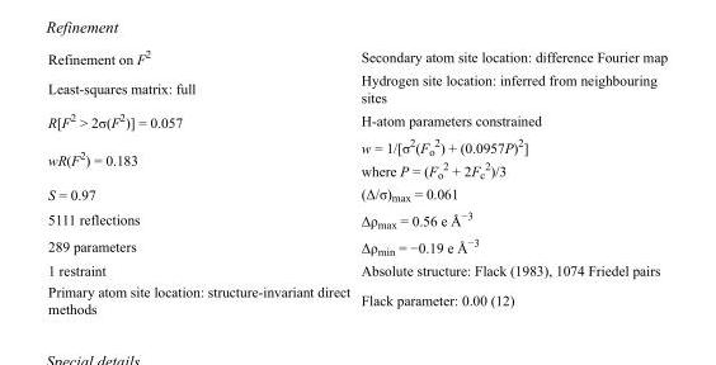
<table><tbody><tr><td>Refinement on F<sup>2</sup></td><td>Secondary atom site location: difference Fourier map</td></tr><tr><td>Least-squares matrix: full</td><td>Hydrogen site location: inferred from neighbouring sites</td></tr><tr><td>R[F<sup>2</sup> &gt; 2σ(F<sup>2</sup>)] = 0.057</td><td>H-atom parameters constrained</td></tr><tr><td>wR(F<sup>2</sup>) = 0.183</td><td>w = 1/[σ<sup>2</sup>(F<sub>o</sub> <sup>2</sup>) + (0.0957P)<sup>2</sup>] where P = (F<sub>o</sub> <sup>2</sup> + 2F<sub>c</sub> <sup>2</sup>)/3</td></tr><tr><td>S = 0.97</td><td>(Δ/σ)<sub>max</sub> = 0.061</td></tr><tr><td>5111 reflections</td><td>Δρ<sub>max</sub> = 0.56 e Å<sup>−3</sup></td></tr><tr><td>289 parameters</td><td>Δρ<sub>min</sub> = −0.19 e Å<sup>−3</sup></td></tr><tr><td>1 restraint</td><td>Absolute structure: Flack (1983), 1074 Friedel pairs</td></tr><tr><td>Primary atom site location: structure-invariant direct methods</td><td>Flack parameter: 0.00 (12)</td></tr></tbody></table>